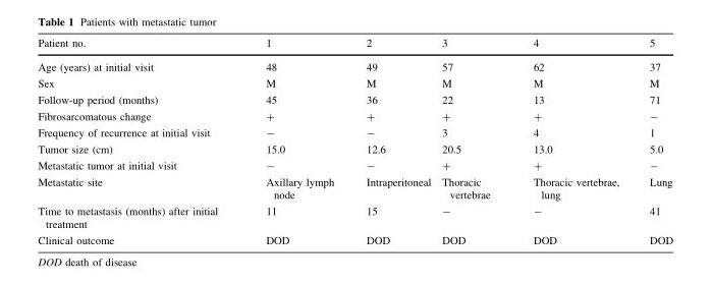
<table><thead><tr><td>Patient no.</td><td>1</td><td>2</td><td>3</td><td>4</td><td>5</td></tr></thead><tbody><tr><td>Age (years) at initial visit</td><td>48</td><td>49</td><td>57</td><td>62</td><td>37</td></tr><tr><td>Sex</td><td>M</td><td>M</td><td>M</td><td>M</td><td>M</td></tr><tr><td>Follow-up period (months)</td><td>45</td><td>36</td><td>22</td><td>13</td><td>71</td></tr><tr><td>Fibrosarcomatous change</td><td>+</td><td>+</td><td>+</td><td>+</td><td>-</td></tr><tr><td>Frequency of recurrence at initial visit</td><td>-</td><td>-</td><td>3</td><td>4</td><td>1</td></tr><tr><td>Tumor size (cm)</td><td>15.0</td><td>12.6</td><td>20.5</td><td>13.0</td><td>5.0</td></tr><tr><td>Metastatic tumor at initial visit</td><td>-</td><td>-</td><td>+</td><td>+</td><td>-</td></tr><tr><td>Metastatic site</td><td>Axillary lymph node</td><td>Intraperitoneal</td><td>Thoracic vertebrae</td><td>Thoracic vertebrae, lung</td><td>Lung</td></tr><tr><td>Time to metastasis (months) after initial treatment</td><td>11</td><td>15</td><td>-</td><td>-</td><td>41</td></tr><tr><td>Clinical outcome</td><td>DOD</td><td>DOD</td><td>DOD</td><td>DOD</td><td>DOD</td></tr></tbody></table>